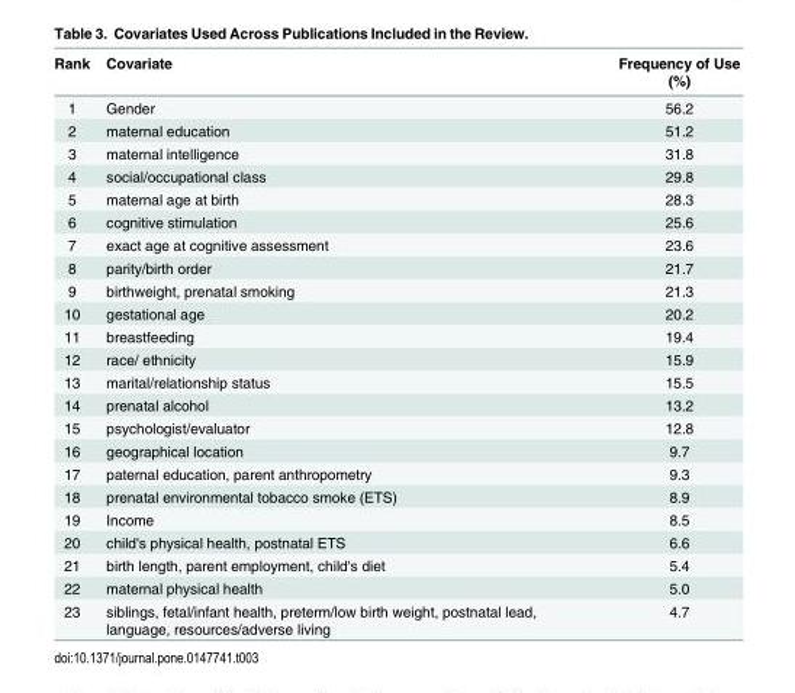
<table><thead><tr><td>Rank</td><td>Covariate</td><td>Frequency of Use (%)</td></tr></thead><tbody><tr><td>1</td><td>Gender</td><td>56.2</td></tr><tr><td>2</td><td>maternal education</td><td>51.2</td></tr><tr><td>3</td><td>maternal intelligence</td><td>31.8</td></tr><tr><td>4</td><td>social/occupational class</td><td>29.8</td></tr><tr><td>5</td><td>maternal age at birth</td><td>28.3</td></tr><tr><td>6</td><td>cognitive stimulation</td><td>25.6</td></tr><tr><td>7</td><td>exact age at cognitive assessment</td><td>23.6</td></tr><tr><td>8</td><td>parity/birth order</td><td>21.7</td></tr><tr><td>9</td><td>birthweight, prenatal smoking</td><td>21.3</td></tr><tr><td>10</td><td>gestational age</td><td>20.2</td></tr><tr><td>11</td><td>breastfeeding</td><td>19.4</td></tr><tr><td>12</td><td>race/ ethnicity</td><td>15.9</td></tr><tr><td>13</td><td>marital/relationship status</td><td>15.5</td></tr><tr><td>14</td><td>prenatal alcohol</td><td>13.2</td></tr><tr><td>15</td><td>psychologist/evaluator</td><td>12.8</td></tr><tr><td>16</td><td>geographical location</td><td>9.7</td></tr><tr><td>17</td><td>paternal education, parent anthropometry</td><td>9.3</td></tr><tr><td>18</td><td>prenatal environmental tobacco smoke (ETS)</td><td>8.9</td></tr><tr><td>19</td><td>Income</td><td>8.5</td></tr><tr><td>20</td><td>child&#x27;s physical health, postnatal ETS</td><td>6.6</td></tr><tr><td>21</td><td>birth length, parent employment, child&#x27;s diet</td><td>5.4</td></tr><tr><td>22</td><td>maternal physical health</td><td>5.0</td></tr><tr><td>23</td><td>siblings, fetal/infant health, preterm/low birth weight, postnatal lead, language, resources/adverse living</td><td>4.7</td></tr></tbody></table>